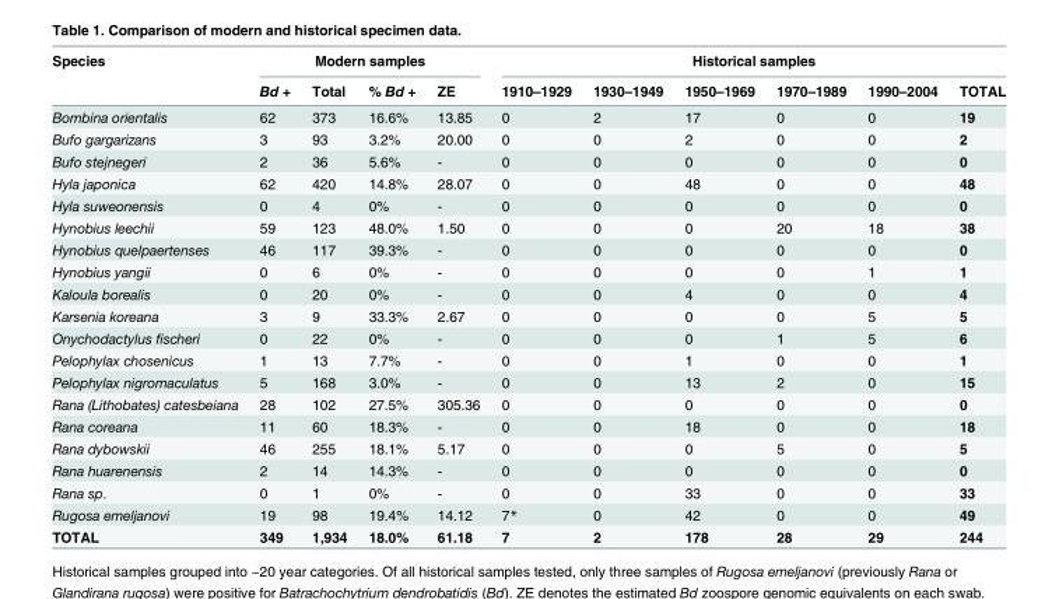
<table><thead><tr><td rowspan="2">Species</td><td colspan="4">Modern samples</td><td colspan="6">Historical samples</td></tr><tr><td>Bd +</td><td>Total</td><td>% Bd +</td><td>ZE</td><td>1910–1929</td><td>1930–1949</td><td>1950–1969</td><td>1970–1989</td><td>1990–2004</td><td>TOTAL</td></tr></thead><tbody><tr><td>Bombina orientalis</td><td>62</td><td>373</td><td>16.6%</td><td>13.85</td><td>0</td><td>2</td><td>17</td><td>0</td><td>0</td><td>19</td></tr><tr><td>Bufo gargarizans</td><td>3</td><td>93</td><td>3.2%</td><td>20.00</td><td>0</td><td>0</td><td>2</td><td>0</td><td>0</td><td>2</td></tr><tr><td>Bufo stejnegeri</td><td>2</td><td>36</td><td>5.6%</td><td>-</td><td>0</td><td>0</td><td>0</td><td>0</td><td>0</td><td>0</td></tr><tr><td>Hyla japonica</td><td>62</td><td>420</td><td>14.8%</td><td>28.07</td><td>0</td><td>0</td><td>48</td><td>0</td><td>0</td><td>48</td></tr><tr><td>Hyla suweonensis</td><td>0</td><td>4</td><td>0%</td><td>-</td><td>0</td><td>0</td><td>0</td><td>0</td><td>0</td><td>0</td></tr><tr><td>Hynobius leechii</td><td>59</td><td>123</td><td>48.0%</td><td>1.50</td><td>0</td><td>0</td><td>0</td><td>20</td><td>18</td><td>38</td></tr><tr><td>Hynobius quelpaertenses</td><td>46</td><td>117</td><td>39.3%</td><td>-</td><td>0</td><td>0</td><td>0</td><td>0</td><td>0</td><td>0</td></tr><tr><td>Hynobius yangii</td><td>0</td><td>6</td><td>0%</td><td>-</td><td>0</td><td>0</td><td>0</td><td>0</td><td>1</td><td>1</td></tr><tr><td>Kaloula borealis</td><td>0</td><td>20</td><td>0%</td><td>-</td><td>0</td><td>0</td><td>4</td><td>0</td><td>0</td><td>4</td></tr><tr><td>Karsenia koreana</td><td>3</td><td>9</td><td>33.3%</td><td>2.67</td><td>0</td><td>0</td><td>0</td><td>0</td><td>5</td><td>5</td></tr><tr><td>Onychodactylus fischeri</td><td>0</td><td>22</td><td>0%</td><td>-</td><td>0</td><td>0</td><td>0</td><td>1</td><td>5</td><td>6</td></tr><tr><td>Pelophylax chosenicus</td><td>1</td><td>13</td><td>7.7%</td><td>-</td><td>0</td><td>0</td><td>1</td><td>0</td><td>0</td><td>1</td></tr><tr><td>Pelophylax nigromaculatus</td><td>5</td><td>168</td><td>3.0%</td><td>-</td><td>0</td><td>0</td><td>13</td><td>2</td><td>0</td><td>15</td></tr><tr><td>Rana (Lithobates) catesbeiana</td><td>28</td><td>102</td><td>27.5%</td><td>305.36</td><td>0</td><td>0</td><td>0</td><td>0</td><td>0</td><td>0</td></tr><tr><td>Rana coreana</td><td>11</td><td>60</td><td>18.3%</td><td>-</td><td>0</td><td>0</td><td>18</td><td>0</td><td>0</td><td>18</td></tr><tr><td>Rana dybowskii</td><td>46</td><td>255</td><td>18.1%</td><td>5.17</td><td>0</td><td>0</td><td>0</td><td>5</td><td>0</td><td>5</td></tr><tr><td>Rana huarenensis</td><td>2</td><td>14</td><td>14.3%</td><td>-</td><td>0</td><td>0</td><td>0</td><td>0</td><td>0</td><td>0</td></tr><tr><td>Rana sp.</td><td>0</td><td>1</td><td>0%</td><td>-</td><td>0</td><td>0</td><td>33</td><td>0</td><td>0</td><td>33</td></tr><tr><td>Rugosa emeljanovi</td><td>19</td><td>98</td><td>19.4%</td><td>14.12</td><td>7*</td><td>0</td><td>42</td><td>0</td><td>0</td><td>49</td></tr><tr><td>TOTAL</td><td>349</td><td>1,934</td><td>18.0%</td><td>61.18</td><td>7</td><td>2</td><td>178</td><td>28</td><td>29</td><td>244</td></tr></tbody></table>